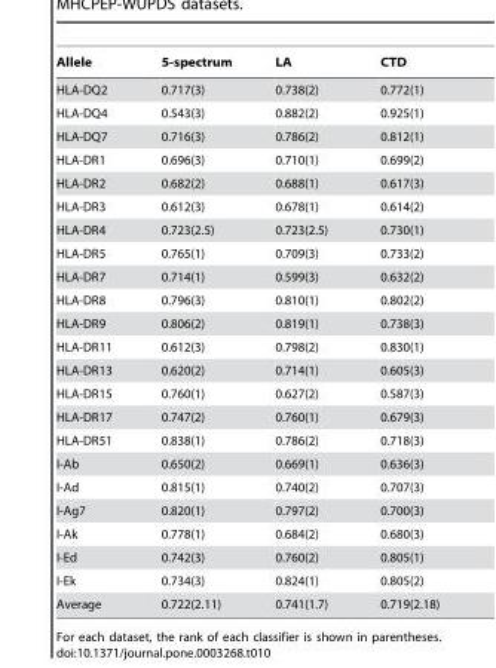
<table><thead><tr><td>Allele</td><td>5-spectrum</td><td>LA</td><td>CTD</td></tr></thead><tbody><tr><td>HLA-DQ2</td><td>0.717(3)</td><td>0.738(2)</td><td>0.772(1)</td></tr><tr><td>HLA-DQ4</td><td>0.543(3)</td><td>0.882(2)</td><td>0.925(1)</td></tr><tr><td>HLA-DQ7</td><td>0.716(3)</td><td>0.786(2)</td><td>0.812(1)</td></tr><tr><td>HLA-DR1</td><td>0.696(3)</td><td>0.710(1)</td><td>0.699(2)</td></tr><tr><td>HLA-DR2</td><td>0.682(2)</td><td>0.688(1)</td><td>0.617(3)</td></tr><tr><td>HLA-DR3</td><td>0.612(3)</td><td>0.678(1)</td><td>0.614(2)</td></tr><tr><td>HLA-DR4</td><td>0.723(2.5)</td><td>0.723(2.5)</td><td>0.730(1)</td></tr><tr><td>HLA-DR5</td><td>0.765(1)</td><td>0.709(3)</td><td>0.733(2)</td></tr><tr><td>HLA-DR7</td><td>0.714(1)</td><td>0.599(3)</td><td>0.632(2)</td></tr><tr><td>HLA-DR8</td><td>0.796(3)</td><td>0.810(1)</td><td>0.802(2)</td></tr><tr><td>HLA-DR9</td><td>0.806(2)</td><td>0.819(1)</td><td>0.738(3)</td></tr><tr><td>HLA-DR11</td><td>0.612(3)</td><td>0.798(2)</td><td>0.830(1)</td></tr><tr><td>HLA-DR13</td><td>0.620(2)</td><td>0.714(1)</td><td>0.605(3)</td></tr><tr><td>HLA-DR15</td><td>0.760(1)</td><td>0.627(2)</td><td>0.587(3)</td></tr><tr><td>HLA-DR17</td><td>0.747(2)</td><td>0.760(1)</td><td>0.679(3)</td></tr><tr><td>HLA-DR51</td><td>0.838(1)</td><td>0.786(2)</td><td>0.718(3)</td></tr><tr><td>I-Ab</td><td>0.650(2)</td><td>0.669(1)</td><td>0.636(3)</td></tr><tr><td>I-Ad</td><td>0.815(1)</td><td>0.740(2)</td><td>0.707(3)</td></tr><tr><td>I-Ag7</td><td>0.820(1)</td><td>0.797(2)</td><td>0.700(3)</td></tr><tr><td>I-Ak</td><td>0.778(1)</td><td>0.684(2)</td><td>0.680(3)</td></tr><tr><td>I-Ed</td><td>0.742(3)</td><td>0.760(2)</td><td>0.805(1)</td></tr><tr><td>I-Ek</td><td>0.734(3)</td><td>0.824(1)</td><td>0.805(2)</td></tr><tr><td>Average</td><td>0.722(2.11)</td><td>0.741(1.7)</td><td>0.719(2.18)</td></tr></tbody></table>